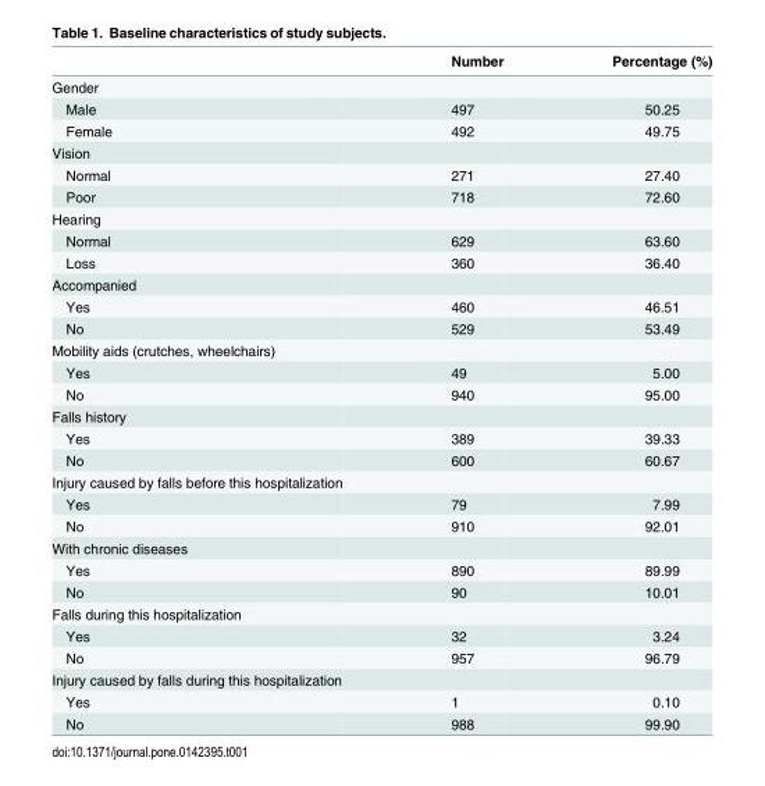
<table><thead><tr><td></td><td>Number</td><td>Percentage (%)</td></tr></thead><tbody><tr><td colspan="3">Gender</td></tr><tr><td>Male</td><td>497</td><td>50.25</td></tr><tr><td>Female</td><td>492</td><td>49.75</td></tr><tr><td colspan="3">Vision</td></tr><tr><td>Normal</td><td>271</td><td>27.40</td></tr><tr><td>Poor</td><td>718</td><td>72.60</td></tr><tr><td colspan="3">Hearing</td></tr><tr><td>Normal</td><td>629</td><td>63.60</td></tr><tr><td>Loss</td><td>360</td><td>36.40</td></tr><tr><td colspan="3">Accompanied</td></tr><tr><td>Yes</td><td>460</td><td>46.51</td></tr><tr><td>No</td><td>529</td><td>53.49</td></tr><tr><td colspan="3">Mobility aids (crutches, wheelchairs)</td></tr><tr><td>Yes</td><td>49</td><td>5.00</td></tr><tr><td>No</td><td>940</td><td>95.00</td></tr><tr><td colspan="3">Falls history</td></tr><tr><td>Yes</td><td>389</td><td>39.33</td></tr><tr><td>No</td><td>600</td><td>60.67</td></tr><tr><td colspan="3">Injury caused by falls before this hospitalization</td></tr><tr><td>Yes</td><td>79</td><td>7.99</td></tr><tr><td>No</td><td>910</td><td>92.01</td></tr><tr><td colspan="3">With chronic diseases</td></tr><tr><td>Yes</td><td>890</td><td>89.99</td></tr><tr><td>No</td><td>90</td><td>10.01</td></tr><tr><td colspan="3">Falls during this hospitalization</td></tr><tr><td>Yes</td><td>32</td><td>3.24</td></tr><tr><td>No</td><td>957</td><td>96.79</td></tr><tr><td colspan="3">Injury caused by falls during this hospitalization</td></tr><tr><td>Yes</td><td>1</td><td>0.10</td></tr><tr><td>No</td><td>988</td><td>99.90</td></tr></tbody></table>